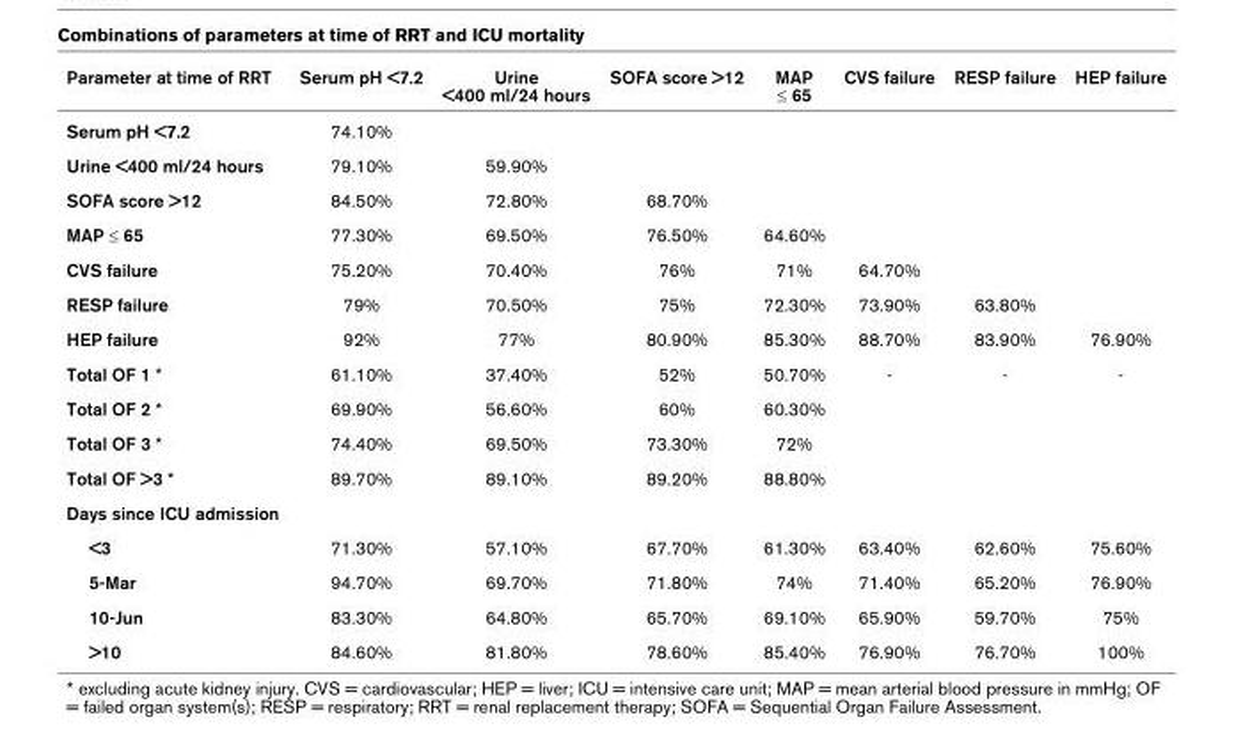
<table><thead><tr><td>Parameter at time of RRT</td><td>Serum pH &lt;7.2</td><td>Urine &lt;400 ml/24 hours</td><td>SOFA score &gt;12</td><td>MAP ≤ 65</td><td>CVS failure</td><td>RESP failure</td><td>HEP failure</td></tr></thead><tbody><tr><td>Serum pH &lt;7.2</td><td>74.10%</td><td></td><td></td><td></td><td></td><td></td><td></td></tr><tr><td>Urine &lt;400 ml/24 hours</td><td>79.10%</td><td>59.90%</td><td></td><td></td><td></td><td></td><td></td></tr><tr><td>SOFA score &gt;12</td><td>84.50%</td><td>72.80%</td><td>68.70%</td><td></td><td></td><td></td><td></td></tr><tr><td>MAP ≤ 65</td><td>77.30%</td><td>69.50%</td><td>76.50%</td><td>64.60%</td><td></td><td></td><td></td></tr><tr><td>CVS failure</td><td>75.20%</td><td>70.40%</td><td>76%</td><td>71%</td><td>64.70%</td><td></td><td></td></tr><tr><td>RESP failure</td><td>79%</td><td>70.50%</td><td>75%</td><td>72.30%</td><td>73.90%</td><td>63.80%</td><td></td></tr><tr><td>HEP failure</td><td>92%</td><td>77%</td><td>80.90%</td><td>85.30%</td><td>88.70%</td><td>83.90%</td><td>76.90%</td></tr><tr><td>Total OF 1 *</td><td>61.10%</td><td>37.40%</td><td>52%</td><td>50.70%</td><td>-</td><td>-</td><td>-</td></tr><tr><td>Total OF 2 *</td><td>69.90%</td><td>56.60%</td><td>60%</td><td>60.30%</td><td></td><td></td><td></td></tr><tr><td>Total OF 3 *</td><td>74.40%</td><td>69.50%</td><td>73.30%</td><td>72%</td><td></td><td></td><td></td></tr><tr><td>Total OF &gt;3 *</td><td>89.70%</td><td>89.10%</td><td>89.20%</td><td>88.80%</td><td></td><td></td><td></td></tr><tr><td colspan="8">Days since ICU admission</td></tr><tr><td>&lt;3</td><td>71.30%</td><td>57.10%</td><td>67.70%</td><td>61.30%</td><td>63.40%</td><td>62.60%</td><td>75.60%</td></tr><tr><td>5-Mar</td><td>94.70%</td><td>69.70%</td><td>71.80%</td><td>74%</td><td>71.40%</td><td>65.20%</td><td>76.90%</td></tr><tr><td>10-Jun</td><td>83.30%</td><td>64.80%</td><td>65.70%</td><td>69.10%</td><td>65.90%</td><td>59.70%</td><td>75%</td></tr><tr><td>&gt;10</td><td>84.60%</td><td>81.80%</td><td>78.60%</td><td>85.40%</td><td>76.90%</td><td>76.70%</td><td>100%</td></tr></tbody></table>